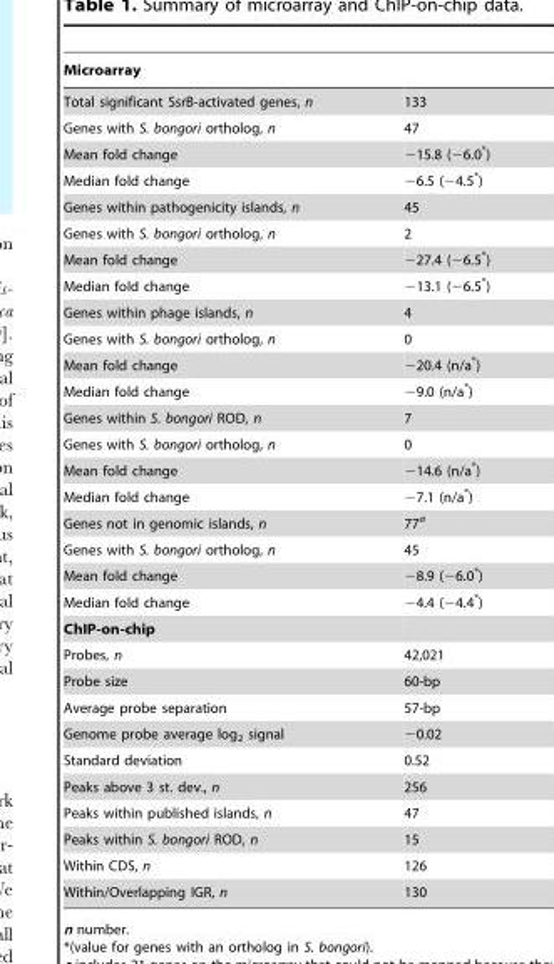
<table><thead><tr><td>Microarray</td><td></td></tr></thead><tbody><tr><td>Total significant SsrB-activated genes, n</td><td>133</td></tr><tr><td>Genes with S. bongori ortholog, n</td><td>47</td></tr><tr><td>Mean fold change</td><td>−15.8 (−6.0*)</td></tr><tr><td>Median fold change</td><td>−6.5 (−4.5*)</td></tr><tr><td>Genes within pathogenicity islands, n</td><td>45</td></tr><tr><td>Genes with S. bongori ortholog, n</td><td>2</td></tr><tr><td>Mean fold change</td><td>−27.4 (−6.5*)</td></tr><tr><td>Median fold change</td><td>−13.1 (−6.5*)</td></tr><tr><td>Genes within phage islands, n</td><td>4</td></tr><tr><td>Genes with S. bongori ortholog, n</td><td>0</td></tr><tr><td>Mean fold change</td><td>−20.4 (n/a*)</td></tr><tr><td>Median fold change</td><td>−9.0 (n/a*)</td></tr><tr><td>Genes within S. bongori ROD, n</td><td>7</td></tr><tr><td>Genes with S. bongori ortholog, n</td><td>0</td></tr><tr><td>Mean fold change</td><td>−14.6 (n/a*)</td></tr><tr><td>Median fold change</td><td>−7.1 (n/a*)</td></tr><tr><td>Genes not in genomic islands, n</td><td>77<sup>a</sup></td></tr><tr><td>Genes with S. bongori ortholog, n</td><td>45</td></tr><tr><td>Mean fold change</td><td>−8.9 (−6.0*)</td></tr><tr><td>Median fold change</td><td>−4.4 (−4.4*)</td></tr><tr><td colspan="2">ChIP-on-chip</td></tr><tr><td>Probes, n</td><td>42,021</td></tr><tr><td>Probe size</td><td>60-bp</td></tr><tr><td>Average probe separation</td><td>57-bp</td></tr><tr><td>Genome probe average log<sub>2</sub> signal</td><td>−0.02</td></tr><tr><td>Standard deviation</td><td>0.52</td></tr><tr><td>Peaks above 3 st. dev., n</td><td>256</td></tr><tr><td>Peaks within published islands, n</td><td>47</td></tr><tr><td>Peaks within S. bongori ROD, n</td><td>15</td></tr><tr><td>Within CDS, n</td><td>126</td></tr><tr><td>Within/Overlapping IGR, n</td><td>130</td></tr></tbody></table>